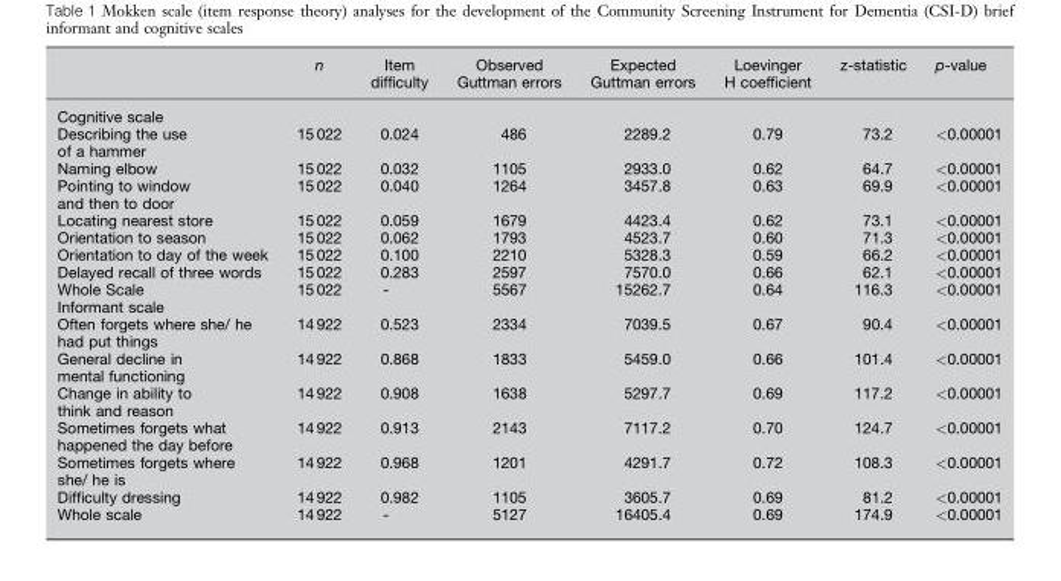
<table><thead><tr><td></td><td>n</td><td>Item difficulty</td><td>Observed Guttman errors</td><td>Expected Guttman errors</td><td>Loevinger H coefficient</td><td>z-statistic</td><td>p-value</td></tr></thead><tbody><tr><td colspan="8">Cognitive scale</td></tr><tr><td>Describing the use of a hammer</td><td>15 022</td><td>0.024</td><td>486</td><td>2289.2</td><td>0.79</td><td>73.2</td><td>&lt;0.00001</td></tr><tr><td>Naming elbow</td><td>15 022</td><td>0.032</td><td>1105</td><td>2933.0</td><td>0.62</td><td>64.7</td><td>&lt;0.00001</td></tr><tr><td>Pointing to window and then to door</td><td>15 022</td><td>0.040</td><td>1264</td><td>3457.8</td><td>0.63</td><td>69.9</td><td>&lt;0.00001</td></tr><tr><td>Locating nearest store</td><td>15 022</td><td>0.059</td><td>1679</td><td>4423.4</td><td>0.62</td><td>73.1</td><td>&lt;0.00001</td></tr><tr><td>Orientation to season</td><td>15 022</td><td>0.062</td><td>1793</td><td>4523.7</td><td>0.60</td><td>71.3</td><td>&lt;0.00001</td></tr><tr><td>Orientation to day of the week</td><td>15 022</td><td>0.100</td><td>2210</td><td>5328.3</td><td>0.59</td><td>66.2</td><td>&lt;0.00001</td></tr><tr><td>Delayed recall of three words</td><td>15 022</td><td>0.283</td><td>2597</td><td>7570.0</td><td>0.66</td><td>62.1</td><td>&lt;0.00001</td></tr><tr><td>Whole Scale</td><td>15 022</td><td>-</td><td>5567</td><td>15262.7</td><td>0.64</td><td>116.3</td><td>&lt;0.00001</td></tr><tr><td colspan="8">Informant scale</td></tr><tr><td>Often forgets where she/ he had put things</td><td>14 922</td><td>0.523</td><td>2334</td><td>7039.5</td><td>0.67</td><td>90.4</td><td>&lt;0.00001</td></tr><tr><td>General decline in mental functioning</td><td>14 922</td><td>0.868</td><td>1833</td><td>5459.0</td><td>0.66</td><td>101.4</td><td>&lt;0.00001</td></tr><tr><td>Change in ability to think and reason</td><td>14 922</td><td>0.908</td><td>1638</td><td>5297.7</td><td>0.69</td><td>117.2</td><td>&lt;0.00001</td></tr><tr><td>Sometimes forgets what happened the day before</td><td>14 922</td><td>0.913</td><td>2143</td><td>7117.2</td><td>0.70</td><td>124.7</td><td>&lt;0.00001</td></tr><tr><td>Sometimes forgets where she/ he is</td><td>14 922</td><td>0.968</td><td>1201</td><td>4291.7</td><td>0.72</td><td>108.3</td><td>&lt;0.00001</td></tr><tr><td>Difficulty dressing</td><td>14 922</td><td>0.982</td><td>1105</td><td>3605.7</td><td>0.69</td><td>81.2</td><td>&lt;0.00001</td></tr><tr><td>Whole scale</td><td>14 922</td><td>-</td><td>5127</td><td>16405.4</td><td>0.69</td><td>174.9</td><td>&lt;0.00001</td></tr></tbody></table>